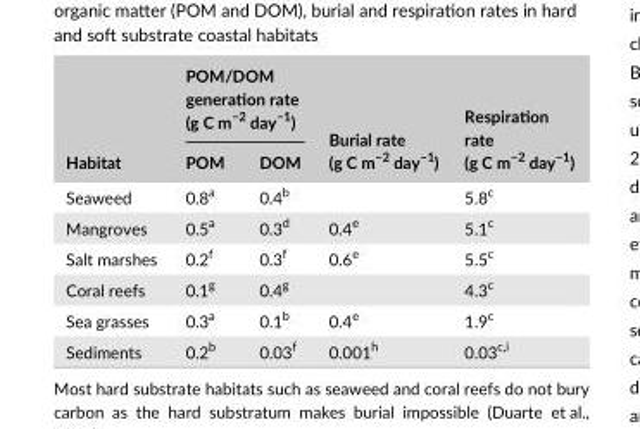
<table><thead><tr><td rowspan="2">Habitat</td><td colspan="2">POM/DOM generation rate (g C m<sup>−2</sup> day<sup>−1</sup>)</td><td rowspan="2">Burial rate (g C m<sup>−2</sup> day<sup>−1</sup>)</td><td rowspan="2">Respiration rate (g C m<sup>−2</sup> day<sup>−1</sup>)</td></tr><tr><td>POM</td><td>DOM</td></tr></thead><tbody><tr><td>Seaweed</td><td>0.8<sup>a</sup></td><td>0.4<sup>b</sup></td><td></td><td>5.8<sup>c</sup></td></tr><tr><td>Mangroves</td><td>0.5<sup>a</sup></td><td>0.3<sup>d</sup></td><td>0.4<sup>e</sup></td><td>5.1<sup>c</sup></td></tr><tr><td>Salt marshes</td><td>0.2<sup>f</sup></td><td>0.3<sup>f</sup></td><td>0.6<sup>e</sup></td><td>5.5<sup>c</sup></td></tr><tr><td>Coral reefs</td><td>0.1<sup>g</sup></td><td>0.4<sup>g</sup></td><td></td><td>4.3<sup>c</sup></td></tr><tr><td>Sea grasses</td><td>0.3<sup>a</sup></td><td>0.1<sup>b</sup></td><td>0.4<sup>e</sup></td><td>1.9<sup>c</sup></td></tr><tr><td>Sediments</td><td>0.2<sup>b</sup></td><td>0.03<sup>f</sup></td><td>0.001<sup>h</sup></td><td>0.03<sup>c,</sup>i</td></tr></tbody></table>